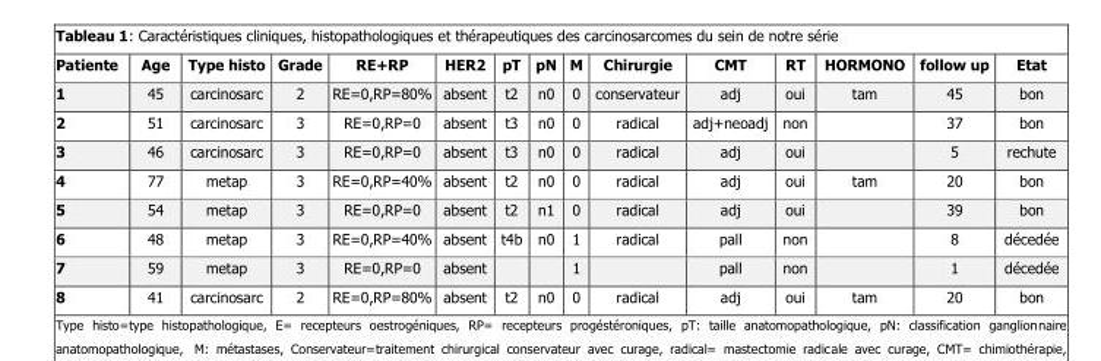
<table><thead><tr><td>Patiente</td><td>Age</td><td>Type histo</td><td>Grade</td><td>RE+RP</td><td>HER2</td><td>pT</td><td>pN</td><td>M</td><td>Chirurgie</td><td>CMT</td><td>RT</td><td>HORMONO</td><td>follow up</td><td>Etat</td></tr></thead><tbody><tr><td>1</td><td>45</td><td>carcinosarc</td><td>2</td><td>RE=0,RP=80%</td><td>absent</td><td>t2</td><td>n0</td><td>0</td><td>conservateur</td><td>adj</td><td>oui</td><td>tam</td><td>45</td><td>bon</td></tr><tr><td>2</td><td>51</td><td>carcinosarc</td><td>3</td><td>RE=0,RP=0</td><td>absent</td><td>t3</td><td>n0</td><td>0</td><td>radical</td><td>adj+neoadj</td><td>non</td><td></td><td>37</td><td>bon</td></tr><tr><td>3</td><td>46</td><td>carcinosarc</td><td>3</td><td>RE=0,RP=0</td><td>absent</td><td>t3</td><td>n0</td><td>0</td><td>radical</td><td>adj</td><td>oui</td><td></td><td>5</td><td>rechute</td></tr><tr><td>4</td><td>77</td><td>metap</td><td>3</td><td>RE=0,RP=40%</td><td>absent</td><td>t2</td><td>n0</td><td>0</td><td>radical</td><td>adj</td><td>oui</td><td>tam</td><td>20</td><td>bon</td></tr><tr><td>5</td><td>54</td><td>metap</td><td>3</td><td>RE=0,RP=0</td><td>absent</td><td>t2</td><td>n1</td><td>0</td><td>radical</td><td>adj</td><td>oui</td><td></td><td>39</td><td>bon</td></tr><tr><td>6</td><td>48</td><td>metap</td><td>3</td><td>RE=0,RP=40%</td><td>absent</td><td>t4b</td><td>n0</td><td>1</td><td>radical</td><td>pall</td><td>non</td><td></td><td>8</td><td>décedée</td></tr><tr><td>7</td><td>59</td><td>metap</td><td>3</td><td>RE=0,RP=0</td><td>absent</td><td></td><td></td><td>1</td><td></td><td>pall</td><td>non</td><td></td><td>1</td><td>décedée</td></tr><tr><td>8</td><td>41</td><td>carcinosarc</td><td>2</td><td>RE=0,RP=80%</td><td>absent</td><td>t2</td><td>n0</td><td>0</td><td>radical</td><td>adj</td><td>oui</td><td>tam</td><td>20</td><td>bon</td></tr></tbody></table>